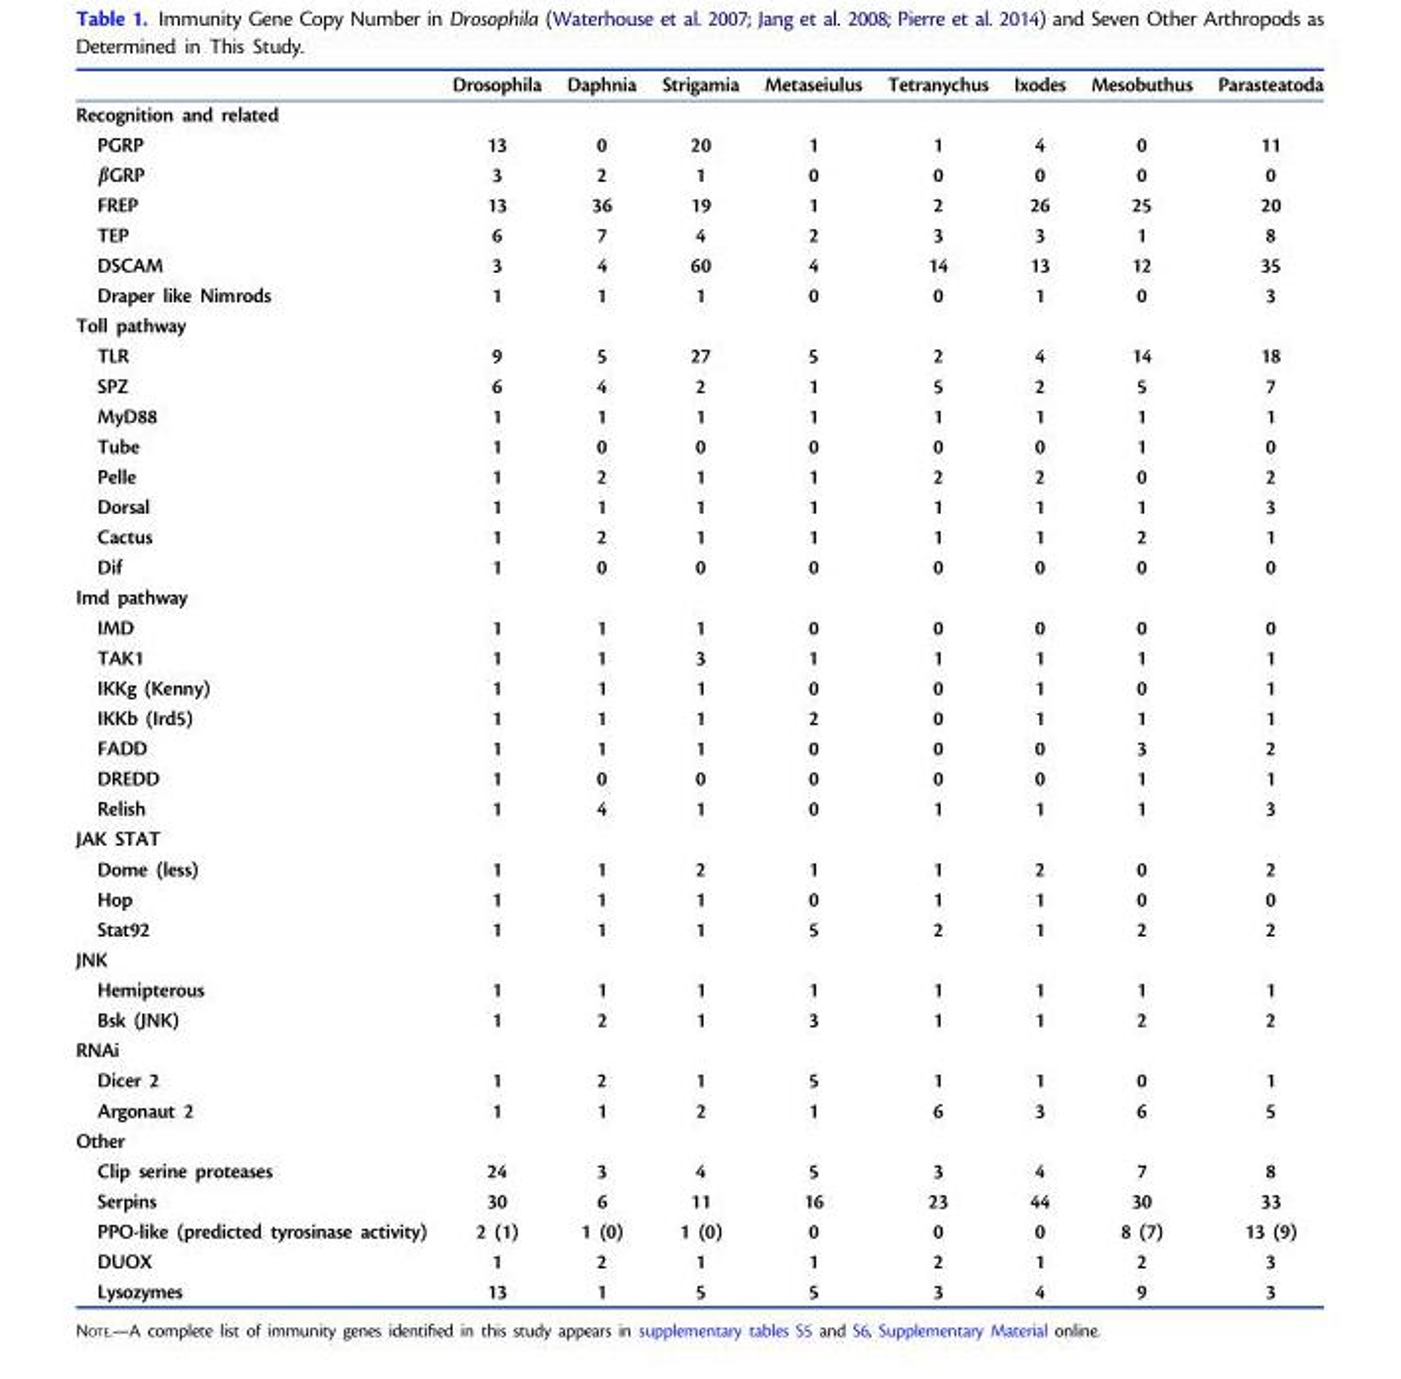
<table><thead><tr><td></td><td>Drosophila</td><td>Daphnia</td><td>Strigamia</td><td>Metaseiulus</td><td>Tetranychus</td><td>Ixodes</td><td>Mesobuthus</td><td>Parasteatoda</td></tr></thead><tbody><tr><td colspan="9">Recognition and related</td></tr><tr><td>PGRP</td><td>13</td><td>0</td><td>20</td><td>1</td><td>1</td><td>4</td><td>0</td><td>11</td></tr><tr><td>βGRP</td><td>3</td><td>2</td><td>1</td><td>0</td><td>0</td><td>0</td><td>0</td><td>0</td></tr><tr><td>FREP</td><td>13</td><td>36</td><td>19</td><td>1</td><td>2</td><td>26</td><td>25</td><td>20</td></tr><tr><td>TEP</td><td>6</td><td>7</td><td>4</td><td>2</td><td>3</td><td>3</td><td>1</td><td>8</td></tr><tr><td>DSCAM</td><td>3</td><td>4</td><td>60</td><td>4</td><td>14</td><td>13</td><td>12</td><td>35</td></tr><tr><td>Draper like Nimrods</td><td>1</td><td>1</td><td>1</td><td>0</td><td>0</td><td>1</td><td>0</td><td>3</td></tr><tr><td colspan="9">Toll pathway</td></tr><tr><td>TLR</td><td>9</td><td>5</td><td>27</td><td>5</td><td>2</td><td>4</td><td>14</td><td>18</td></tr><tr><td>SPZ</td><td>6</td><td>4</td><td>2</td><td>1</td><td>5</td><td>2</td><td>5</td><td>7</td></tr><tr><td>MyD88</td><td>1</td><td>1</td><td>1</td><td>1</td><td>1</td><td>1</td><td>1</td><td>1</td></tr><tr><td>Tube</td><td>1</td><td>0</td><td>0</td><td>0</td><td>0</td><td>0</td><td>1</td><td>0</td></tr><tr><td>Pelle</td><td>1</td><td>2</td><td>1</td><td>1</td><td>2</td><td>2</td><td>0</td><td>2</td></tr><tr><td>Dorsal</td><td>1</td><td>1</td><td>1</td><td>1</td><td>1</td><td>1</td><td>1</td><td>3</td></tr><tr><td>Cactus</td><td>1</td><td>2</td><td>1</td><td>1</td><td>1</td><td>1</td><td>2</td><td>1</td></tr><tr><td>Dif</td><td>1</td><td>0</td><td>0</td><td>0</td><td>0</td><td>0</td><td>0</td><td>0</td></tr><tr><td colspan="9">Imd pathway</td></tr><tr><td>IMD</td><td>1</td><td>1</td><td>1</td><td>0</td><td>0</td><td>0</td><td>0</td><td>0</td></tr><tr><td>TAK1</td><td>1</td><td>1</td><td>3</td><td>1</td><td>1</td><td>1</td><td>1</td><td>1</td></tr><tr><td>IKKg (Kenny)</td><td>1</td><td>1</td><td>1</td><td>0</td><td>0</td><td>1</td><td>0</td><td>1</td></tr><tr><td>IKKb (Ird5)</td><td>1</td><td>1</td><td>1</td><td>2</td><td>0</td><td>1</td><td>1</td><td>1</td></tr><tr><td>FADD</td><td>1</td><td>1</td><td>1</td><td>0</td><td>0</td><td>0</td><td>3</td><td>2</td></tr><tr><td>DREDD</td><td>1</td><td>0</td><td>0</td><td>0</td><td>0</td><td>0</td><td>1</td><td>1</td></tr><tr><td>Relish</td><td>1</td><td>4</td><td>1</td><td>0</td><td>1</td><td>1</td><td>1</td><td>3</td></tr><tr><td colspan="9">JAK STAT</td></tr><tr><td>Dome (less)</td><td>1</td><td>1</td><td>2</td><td>1</td><td>1</td><td>2</td><td>0</td><td>2</td></tr><tr><td>Hop</td><td>1</td><td>1</td><td>1</td><td>0</td><td>1</td><td>1</td><td>0</td><td>0</td></tr><tr><td>Stat92</td><td>1</td><td>1</td><td>1</td><td>5</td><td>2</td><td>1</td><td>2</td><td>2</td></tr><tr><td colspan="9">JNK</td></tr><tr><td>Hemipterous</td><td>1</td><td>1</td><td>1</td><td>1</td><td>1</td><td>1</td><td>1</td><td>1</td></tr><tr><td>Bsk (JNK)</td><td>1</td><td>2</td><td>1</td><td>3</td><td>1</td><td>1</td><td>2</td><td>2</td></tr><tr><td colspan="9">RNAi</td></tr><tr><td>Dicer 2</td><td>1</td><td>2</td><td>1</td><td>5</td><td>1</td><td>1</td><td>0</td><td>1</td></tr><tr><td>Argonaut 2</td><td>1</td><td>1</td><td>2</td><td>1</td><td>6</td><td>3</td><td>6</td><td>5</td></tr><tr><td colspan="9">Other</td></tr><tr><td>Clip serine proteases</td><td>24</td><td>3</td><td>4</td><td>5</td><td>3</td><td>4</td><td>7</td><td>8</td></tr><tr><td>Serpins</td><td>30</td><td>6</td><td>11</td><td>16</td><td>23</td><td>44</td><td>30</td><td>33</td></tr><tr><td>PPO-like (predicted tyrosinase activity)</td><td>2 (1)</td><td>1 (0)</td><td>1 (0)</td><td>0</td><td>0</td><td>0</td><td>8 (7)</td><td>13 (9)</td></tr><tr><td>DUOX</td><td>1</td><td>2</td><td>1</td><td>1</td><td>2</td><td>1</td><td>2</td><td>3</td></tr><tr><td>Lysozymes</td><td>13</td><td>1</td><td>5</td><td>5</td><td>3</td><td>4</td><td>9</td><td>3</td></tr></tbody></table>